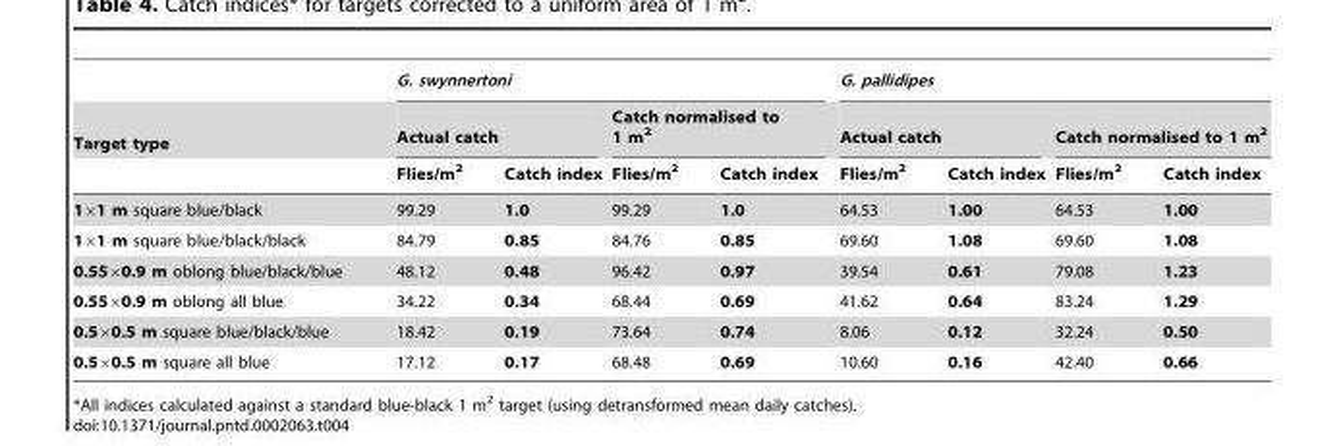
<table><thead><tr><td rowspan="3">Target type</td><td colspan="4">G. swynnertoni</td><td colspan="4">G. pallidipes</td></tr><tr><td colspan="2">Actual catch</td><td colspan="2">Catch normalised to 1 m<sup>2</sup></td><td colspan="2">Actual catch</td><td colspan="2">Catch normalised to 1 m<sup>2</sup></td></tr><tr><td>Flies/m<sup>2</sup></td><td>Catch index</td><td>Flies/m<sup>2</sup></td><td>Catch index</td><td>Flies/m<sup>2</sup></td><td>Catch index</td><td>Flies/m<sup>2</sup></td><td>Catch index</td></tr></thead><tbody><tr><td>1×1 m square blue/black</td><td>99.29</td><td>1.0</td><td>99.29</td><td>1.0</td><td>64.53</td><td>1.00</td><td>64.53</td><td>1.00</td></tr><tr><td>1×1 m square blue/black/black</td><td>84.79</td><td>0.85</td><td>84.76</td><td>0.85</td><td>69.60</td><td>1.08</td><td>69.60</td><td>1.08</td></tr><tr><td>0.55×0.9 m oblong blue/black/blue</td><td>48.12</td><td>0.48</td><td>96.42</td><td>0.97</td><td>39.54</td><td>0.61</td><td>79.08</td><td>1.23</td></tr><tr><td>0.55×0.9 m oblong all blue</td><td>34.22</td><td>0.34</td><td>68.44</td><td>0.69</td><td>41.62</td><td>0.64</td><td>83.24</td><td>1.29</td></tr><tr><td>0.5×0.5 m square blue/black/blue</td><td>18.42</td><td>0.19</td><td>73.64</td><td>0.74</td><td>8.06</td><td>0.12</td><td>32.24</td><td>0.50</td></tr><tr><td>0.5×0.5 m square all blue</td><td>17.12</td><td>0.17</td><td>68.48</td><td>0.69</td><td>10.60</td><td>0.16</td><td>42.40</td><td>0.66</td></tr></tbody></table>